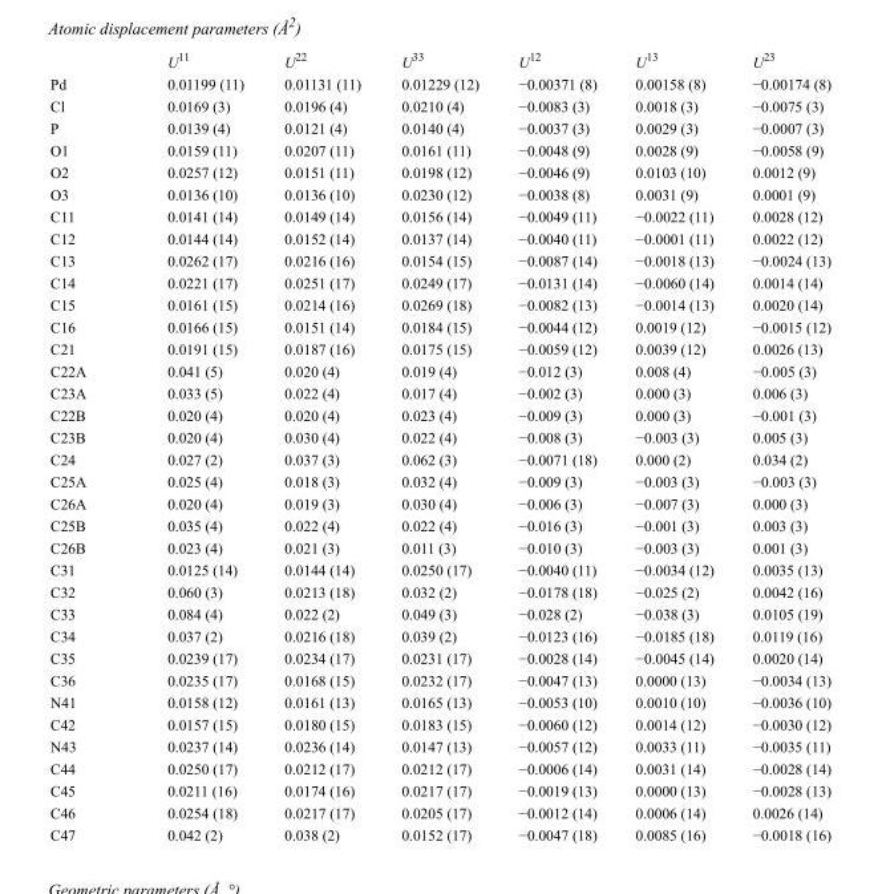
<table><thead><tr><td></td><td>U<sup>11</sup></td><td>U<sup>22</sup></td><td>U<sup>33</sup></td><td>U<sup>12</sup></td><td>U<sup>13</sup></td><td>U<sup>23</sup></td></tr></thead><tbody><tr><td>Pd</td><td>0.01199 (11)</td><td>0.01131 (11)</td><td>0.01229 (12)</td><td>−0.00371 (8)</td><td>0.00158 (8)</td><td>−0.00174 (8)</td></tr><tr><td>Cl</td><td>0.0169 (3)</td><td>0.0196 (4)</td><td>0.0210 (4)</td><td>−0.0083 (3)</td><td>0.0018 (3)</td><td>−0.0075 (3)</td></tr><tr><td>P</td><td>0.0139 (4)</td><td>0.0121 (4)</td><td>0.0140 (4)</td><td>−0.0037 (3)</td><td>0.0029 (3)</td><td>−0.0007 (3)</td></tr><tr><td>O1</td><td>0.0159 (11)</td><td>0.0207 (11)</td><td>0.0161 (11)</td><td>−0.0048 (9)</td><td>0.0028 (9)</td><td>−0.0058 (9)</td></tr><tr><td>O2</td><td>0.0257 (12)</td><td>0.0151 (11)</td><td>0.0198 (12)</td><td>−0.0046 (9)</td><td>0.0103 (10)</td><td>0.0012 (9)</td></tr><tr><td>O3</td><td>0.0136 (10)</td><td>0.0136 (10)</td><td>0.0230 (12)</td><td>−0.0038 (8)</td><td>0.0031 (9)</td><td>0.0001 (9)</td></tr><tr><td>C11</td><td>0.0141 (14)</td><td>0.0149 (14)</td><td>0.0156 (14)</td><td>−0.0049 (11)</td><td>−0.0022 (11)</td><td>0.0028 (12)</td></tr><tr><td>C12</td><td>0.0144 (14)</td><td>0.0152 (14)</td><td>0.0137 (14)</td><td>−0.0040 (11)</td><td>−0.0001 (11)</td><td>0.0022 (12)</td></tr><tr><td>C13</td><td>0.0262 (17)</td><td>0.0216 (16)</td><td>0.0154 (15)</td><td>−0.0087 (14)</td><td>−0.0018 (13)</td><td>−0.0024 (13)</td></tr><tr><td>C14</td><td>0.0221 (17)</td><td>0.0251 (17)</td><td>0.0249 (17)</td><td>−0.0131 (14)</td><td>−0.0060 (14)</td><td>0.0014 (14)</td></tr><tr><td>C15</td><td>0.0161 (15)</td><td>0.0214 (16)</td><td>0.0269 (18)</td><td>−0.0082 (13)</td><td>−0.0014 (13)</td><td>0.0020 (14)</td></tr><tr><td>C16</td><td>0.0166 (15)</td><td>0.0151 (14)</td><td>0.0184 (15)</td><td>−0.0044 (12)</td><td>0.0019 (12)</td><td>−0.0015 (12)</td></tr><tr><td>C21</td><td>0.0191 (15)</td><td>0.0187 (16)</td><td>0.0175 (15)</td><td>−0.0059 (12)</td><td>0.0039 (12)</td><td>0.0026 (13)</td></tr><tr><td>C22A</td><td>0.041 (5)</td><td>0.020 (4)</td><td>0.019 (4)</td><td>−0.012 (3)</td><td>0.008 (4)</td><td>−0.005 (3)</td></tr><tr><td>C23A</td><td>0.033 (5)</td><td>0.022 (4)</td><td>0.017 (4)</td><td>−0.002 (3)</td><td>0.000 (3)</td><td>0.006 (3)</td></tr><tr><td>C22B</td><td>0.020 (4)</td><td>0.020 (4)</td><td>0.023 (4)</td><td>−0.009 (3)</td><td>0.000 (3)</td><td>−0.001 (3)</td></tr><tr><td>C23B</td><td>0.020 (4)</td><td>0.030 (4)</td><td>0.022 (4)</td><td>−0.008 (3)</td><td>−0.003 (3)</td><td>0.005 (3)</td></tr><tr><td>C24</td><td>0.027 (2)</td><td>0.037 (3)</td><td>0.062 (3)</td><td>−0.0071 (18)</td><td>0.000 (2)</td><td>0.034 (2)</td></tr><tr><td>C25A</td><td>0.025 (4)</td><td>0.018 (3)</td><td>0.032 (4)</td><td>−0.009 (3)</td><td>−0.003 (3)</td><td>−0.003 (3)</td></tr><tr><td>C26A</td><td>0.020 (4)</td><td>0.019 (3)</td><td>0.030 (4)</td><td>−0.006 (3)</td><td>−0.007 (3)</td><td>0.000 (3)</td></tr><tr><td>C25B</td><td>0.035 (4)</td><td>0.022 (4)</td><td>0.022 (4)</td><td>−0.016 (3)</td><td>−0.001 (3)</td><td>0.003 (3)</td></tr><tr><td>C26B</td><td>0.023 (4)</td><td>0.021 (3)</td><td>0.011 (3)</td><td>−0.010 (3)</td><td>−0.003 (3)</td><td>0.001 (3)</td></tr><tr><td>C31</td><td>0.0125 (14)</td><td>0.0144 (14)</td><td>0.0250 (17)</td><td>−0.0040 (11)</td><td>−0.0034 (12)</td><td>0.0035 (13)</td></tr><tr><td>C32</td><td>0.060 (3)</td><td>0.0213 (18)</td><td>0.032 (2)</td><td>−0.0178 (18)</td><td>−0.025 (2)</td><td>0.0042 (16)</td></tr><tr><td>C33</td><td>0.084 (4)</td><td>0.022 (2)</td><td>0.049 (3)</td><td>−0.028 (2)</td><td>−0.038 (3)</td><td>0.0105 (19)</td></tr><tr><td>C34</td><td>0.037 (2)</td><td>0.0216 (18)</td><td>0.039 (2)</td><td>−0.0123 (16)</td><td>−0.0185 (18)</td><td>0.0119 (16)</td></tr><tr><td>C35</td><td>0.0239 (17)</td><td>0.0234 (17)</td><td>0.0231 (17)</td><td>−0.0028 (14)</td><td>−0.0045 (14)</td><td>0.0020 (14)</td></tr><tr><td>C36</td><td>0.0235 (17)</td><td>0.0168 (15)</td><td>0.0232 (17)</td><td>−0.0047 (13)</td><td>0.0000 (13)</td><td>−0.0034 (13)</td></tr><tr><td>N41</td><td>0.0158 (12)</td><td>0.0161 (13)</td><td>0.0165 (13)</td><td>−0.0053 (10)</td><td>0.0010 (10)</td><td>−0.0036 (10)</td></tr><tr><td>C42</td><td>0.0157 (15)</td><td>0.0180 (15)</td><td>0.0183 (15)</td><td>−0.0060 (12)</td><td>0.0014 (12)</td><td>−0.0030 (12)</td></tr><tr><td>N43</td><td>0.0237 (14)</td><td>0.0236 (14)</td><td>0.0147 (13)</td><td>−0.0057 (12)</td><td>0.0033 (11)</td><td>−0.0035 (11)</td></tr><tr><td>C44</td><td>0.0250 (17)</td><td>0.0212 (17)</td><td>0.0212 (17)</td><td>−0.0006 (14)</td><td>0.0031 (14)</td><td>−0.0028 (14)</td></tr><tr><td>C45</td><td>0.0211 (16)</td><td>0.0174 (16)</td><td>0.0217 (17)</td><td>−0.0019 (13)</td><td>0.0000 (13)</td><td>−0.0028 (13)</td></tr><tr><td>C46</td><td>0.0254 (18)</td><td>0.0217 (17)</td><td>0.0205 (17)</td><td>−0.0012 (14)</td><td>0.0006 (14)</td><td>0.0026 (14)</td></tr><tr><td>C47</td><td>0.042 (2)</td><td>0.038 (2)</td><td>0.0152 (17)</td><td>−0.0047 (18)</td><td>0.0085 (16)</td><td>−0.0018 (16)</td></tr></tbody></table>